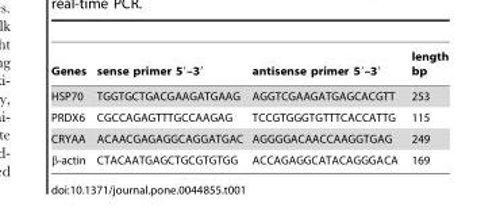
<table><thead><tr><td>Genes</td><td>sense primer 5′–3′</td><td>antisense primer 5′–3′</td><td>length bp</td></tr></thead><tbody><tr><td>HSP70</td><td>TGGTGCTGACGAAGATGAAG</td><td>AGGTCGAAGATGAGCACGTT</td><td>253</td></tr><tr><td>PRDX6</td><td>CGCCAGAGTTTGCCAAGAG</td><td>TCCGTGGGTGTTTCACCATTG</td><td>115</td></tr><tr><td>CRYAA</td><td>ACAACGAGAGGCAGGATGAC</td><td>AGGGGACAACCAAGGTGAG</td><td>249</td></tr><tr><td>β-actin</td><td>CTACAATGAGCTGCGTGTGG</td><td>ACCAGAGGCATACAGGGACA</td><td>169</td></tr></tbody></table>